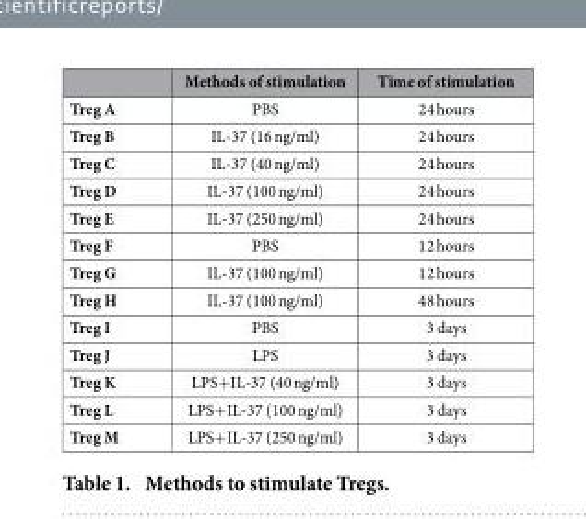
<table><thead><tr><td></td><td>Methods of stimulation</td><td>Time of stimulation</td></tr></thead><tbody><tr><td>Treg A</td><td>PBS</td><td>24 hours</td></tr><tr><td>Treg B</td><td>IL-37 (16 ng/ml)</td><td>24 hours</td></tr><tr><td>Treg C</td><td>IL-37 (40 ng/ml)</td><td>24 hours</td></tr><tr><td>Treg D</td><td>IL-37 (100 ng/ml)</td><td>24 hours</td></tr><tr><td>Treg E</td><td>IL-37 (250 ng/ml)</td><td>24 hours</td></tr><tr><td>Treg F</td><td>PBS</td><td>12 hours</td></tr><tr><td>Treg G</td><td>IL-37 (100 ng/ml)</td><td>12 hours</td></tr><tr><td>Treg H</td><td>IL-37 (100 ng/ml)</td><td>48 hours</td></tr><tr><td>Treg I</td><td>PBS</td><td>3 days</td></tr><tr><td>Treg J</td><td>LPS</td><td>3 days</td></tr><tr><td>Treg K</td><td>LPS+ IL-37 (40 ng/ml)</td><td>3 days</td></tr><tr><td>Treg L</td><td>LPS+ IL-37 (100 ng/ml)</td><td>3 days</td></tr><tr><td>Treg M</td><td>LPS+ IL-37 (250 ng/ml)</td><td>3 days</td></tr></tbody></table>